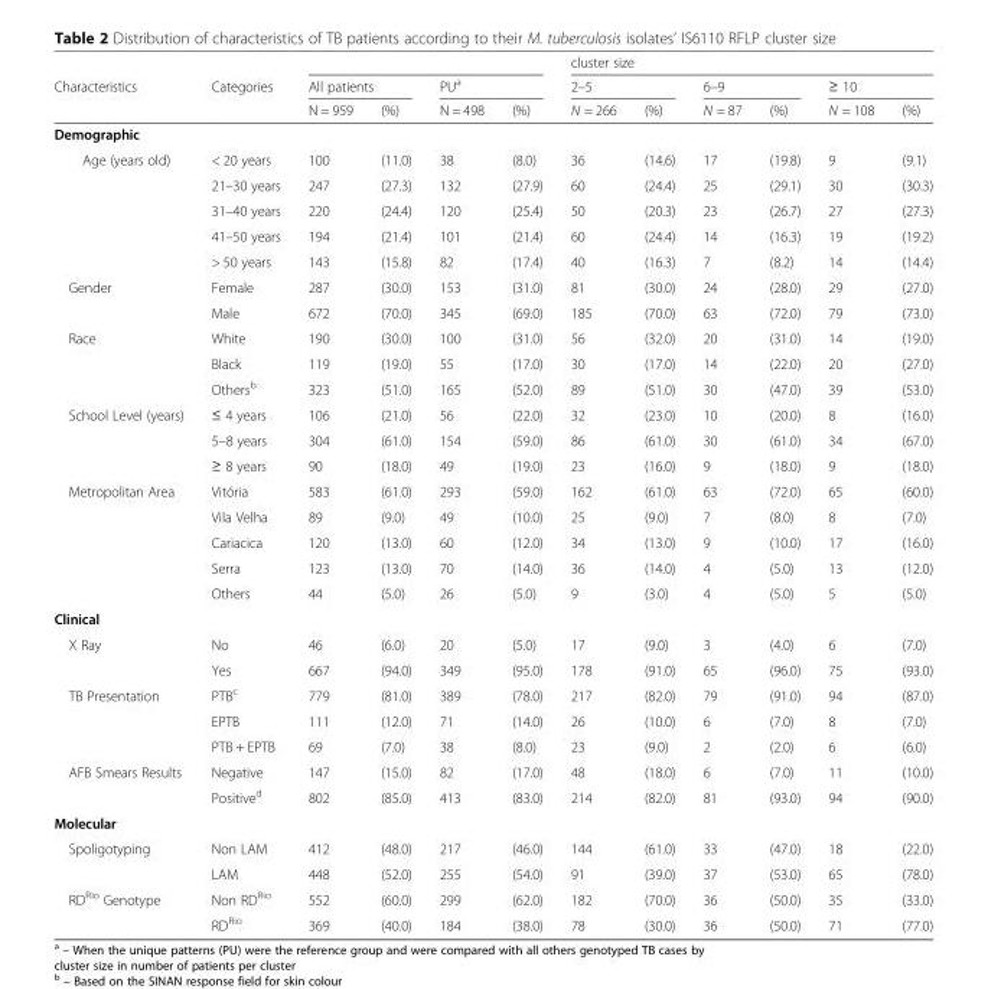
<table><thead><tr><td rowspan="3">Characteristics</td><td rowspan="3">Categories</td><td></td><td></td><td></td><td></td><td colspan="6">cluster size</td></tr><tr><td colspan="2">All patients</td><td colspan="2">PU<sup>a</sup></td><td colspan="2">2–5</td><td colspan="2">6–9</td><td colspan="2">≥ 10</td></tr><tr><td>N = 959</td><td>(%)</td><td>N = 498</td><td>(%)</td><td>N = 266</td><td>(%)</td><td>N = 87</td><td>(%)</td><td>N = 108</td><td>(%)</td></tr></thead><tbody><tr><td colspan="12">Demographic</td></tr><tr><td rowspan="5">Age (years old)</td><td>&lt; 20 years</td><td>100</td><td>(11.0)</td><td>38</td><td>(8.0)</td><td>36</td><td>(14.6)</td><td>17</td><td>(19.8)</td><td>9</td><td>(9.1)</td></tr><tr><td>21–30 years</td><td>247</td><td>(27.3)</td><td>132</td><td>(27.9)</td><td>60</td><td>(24.4)</td><td>25</td><td>(29.1)</td><td>30</td><td>(30.3)</td></tr><tr><td>31–40 years</td><td>220</td><td>(24.4)</td><td>120</td><td>(25.4)</td><td>50</td><td>(20.3)</td><td>23</td><td>(26.7)</td><td>27</td><td>(27.3)</td></tr><tr><td>41–50 years</td><td>194</td><td>(21.4)</td><td>101</td><td>(21.4)</td><td>60</td><td>(24.4)</td><td>14</td><td>(16.3)</td><td>19</td><td>(19.2)</td></tr><tr><td>&gt; 50 years</td><td>143</td><td>(15.8)</td><td>82</td><td>(17.4)</td><td>40</td><td>(16.3)</td><td>7</td><td>(8.2)</td><td>14</td><td>(14.4)</td></tr><tr><td rowspan="2">Gender</td><td>Female</td><td>287</td><td>(30.0)</td><td>153</td><td>(31.0)</td><td>81</td><td>(30.0)</td><td>24</td><td>(28.0)</td><td>29</td><td>(27.0)</td></tr><tr><td>Male</td><td>672</td><td>(70.0)</td><td>345</td><td>(69.0)</td><td>185</td><td>(70.0)</td><td>63</td><td>(72.0)</td><td>79</td><td>(73.0)</td></tr><tr><td rowspan="3">Race</td><td>White</td><td>190</td><td>(30.0)</td><td>100</td><td>(31.0)</td><td>56</td><td>(32.0)</td><td>20</td><td>(31.0)</td><td>14</td><td>(19.0)</td></tr><tr><td>Black</td><td>119</td><td>(19.0)</td><td>55</td><td>(17.0)</td><td>30</td><td>(17.0)</td><td>14</td><td>(22.0)</td><td>20</td><td>(27.0)</td></tr><tr><td>Others<sup>b</sup></td><td>323</td><td>(51.0)</td><td>165</td><td>(52.0)</td><td>89</td><td>(51.0)</td><td>30</td><td>(47.0)</td><td>39</td><td>(53.0)</td></tr><tr><td rowspan="3">School Level (years)</td><td>≤ 4 years</td><td>106</td><td>(21.0)</td><td>56</td><td>(22.0)</td><td>32</td><td>(23.0)</td><td>10</td><td>(20.0)</td><td>8</td><td>(16.0)</td></tr><tr><td>5–8 years</td><td>304</td><td>(61.0)</td><td>154</td><td>(59.0)</td><td>86</td><td>(61.0)</td><td>30</td><td>(61.0)</td><td>34</td><td>(67.0)</td></tr><tr><td>≥ 8 years</td><td>90</td><td>(18.0)</td><td>49</td><td>(19.0)</td><td>23</td><td>(16.0)</td><td>9</td><td>(18.0)</td><td>9</td><td>(18.0)</td></tr><tr><td rowspan="5">Metropolitan Area</td><td>Vitória</td><td>583</td><td>(61.0)</td><td>293</td><td>(59.0)</td><td>162</td><td>(61.0)</td><td>63</td><td>(72.0)</td><td>65</td><td>(60.0)</td></tr><tr><td>Vila Velha</td><td>89</td><td>(9.0)</td><td>49</td><td>(10.0)</td><td>25</td><td>(9.0)</td><td>7</td><td>(8.0)</td><td>8</td><td>(7.0)</td></tr><tr><td>Cariacica</td><td>120</td><td>(13.0)</td><td>60</td><td>(12.0)</td><td>34</td><td>(13.0)</td><td>9</td><td>(10.0)</td><td>17</td><td>(16.0)</td></tr><tr><td>Serra</td><td>123</td><td>(13.0)</td><td>70</td><td>(14.0)</td><td>36</td><td>(14.0)</td><td>4</td><td>(5.0)</td><td>13</td><td>(12.0)</td></tr><tr><td>Others</td><td>44</td><td>(5.0)</td><td>26</td><td>(5.0)</td><td>9</td><td>(3.0)</td><td>4</td><td>(5.0)</td><td>5</td><td>(5.0)</td></tr><tr><td colspan="12">Clinical</td></tr><tr><td rowspan="2">X Ray</td><td>No</td><td>46</td><td>(6.0)</td><td>20</td><td>(5.0)</td><td>17</td><td>(9.0)</td><td>3</td><td>(4.0)</td><td>6</td><td>(7.0)</td></tr><tr><td>Yes</td><td>667</td><td>(94.0)</td><td>349</td><td>(95.0)</td><td>178</td><td>(91.0)</td><td>65</td><td>(96.0)</td><td>75</td><td>(93.0)</td></tr><tr><td rowspan="3">TB Presentation</td><td>PTB<sup>c</sup></td><td>779</td><td>(81.0)</td><td>389</td><td>(78.0)</td><td>217</td><td>(82.0)</td><td>79</td><td>(91.0)</td><td>94</td><td>(87.0)</td></tr><tr><td>EPTB</td><td>111</td><td>(12.0)</td><td>71</td><td>(14.0)</td><td>26</td><td>(10.0)</td><td>6</td><td>(7.0)</td><td>8</td><td>(7.0)</td></tr><tr><td>PTB + EPTB</td><td>69</td><td>(7.0)</td><td>38</td><td>(8.0)</td><td>23</td><td>(9.0)</td><td>2</td><td>(2.0)</td><td>6</td><td>(6.0)</td></tr><tr><td rowspan="2">AFB Smears Results</td><td>Negative</td><td>147</td><td>(15.0)</td><td>82</td><td>(17.0)</td><td>48</td><td>(18.0)</td><td>6</td><td>(7.0)</td><td>11</td><td>(10.0)</td></tr><tr><td>Positive<sup>d</sup></td><td>802</td><td>(85.0)</td><td>413</td><td>(83.0)</td><td>214</td><td>(82.0)</td><td>81</td><td>(93.0)</td><td>94</td><td>(90.0)</td></tr><tr><td colspan="12">Molecular</td></tr><tr><td rowspan="2">Spoligotyping</td><td>Non LAM</td><td>412</td><td>(48.0)</td><td>217</td><td>(46.0)</td><td>144</td><td>(61.0)</td><td>33</td><td>(47.0)</td><td>18</td><td>(22.0)</td></tr><tr><td>LAM</td><td>448</td><td>(52.0)</td><td>255</td><td>(54.0)</td><td>91</td><td>(39.0)</td><td>37</td><td>(53.0)</td><td>65</td><td>(78.0)</td></tr><tr><td rowspan="2">RD<sup>Rio</sup> Genotype</td><td>Non RD<sup>Rio</sup></td><td>552</td><td>(60.0)</td><td>299</td><td>(62.0)</td><td>182</td><td>(70.0)</td><td>36</td><td>(50.0)</td><td>35</td><td>(33.0)</td></tr><tr><td>RD<sup>Rio</sup></td><td>369</td><td>(40.0)</td><td>184</td><td>(38.0)</td><td>78</td><td>(30.0)</td><td>36</td><td>(50.0)</td><td>71</td><td>(77.0)</td></tr></tbody></table>